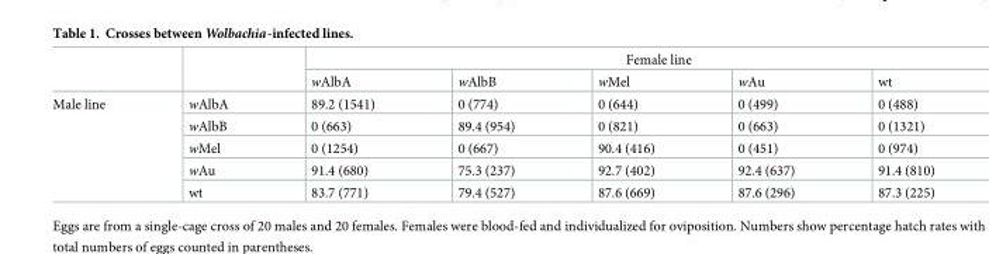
<table><thead><tr><td rowspan="2"></td><td rowspan="2"></td><td colspan="5">Female line</td></tr><tr><td>wAlbA</td><td>wAlbB</td><td>wMel</td><td>wAu</td><td>wt</td></tr></thead><tbody><tr><td rowspan="5">Male line</td><td>wAlbA</td><td>89.2 (1541)</td><td>0 (774)</td><td>0 (644)</td><td>0 (499)</td><td>0 (488)</td></tr><tr><td>wAlbB</td><td>0 (663)</td><td>89.4 (954)</td><td>0 (821)</td><td>0 (663)</td><td>0 (1321)</td></tr><tr><td>wMel</td><td>0 (1254)</td><td>0 (667)</td><td>90.4 (416)</td><td>0 (451)</td><td>0 (974)</td></tr><tr><td>wAu</td><td>91.4 (680)</td><td>75.3 (237)</td><td>92.7 (402)</td><td>92.4 (637)</td><td>91.4 (810)</td></tr><tr><td>wt</td><td>83.7 (771)</td><td>79.4 (527)</td><td>87.6 (669)</td><td>87.6 (296)</td><td>87.3 (225)</td></tr></tbody></table>